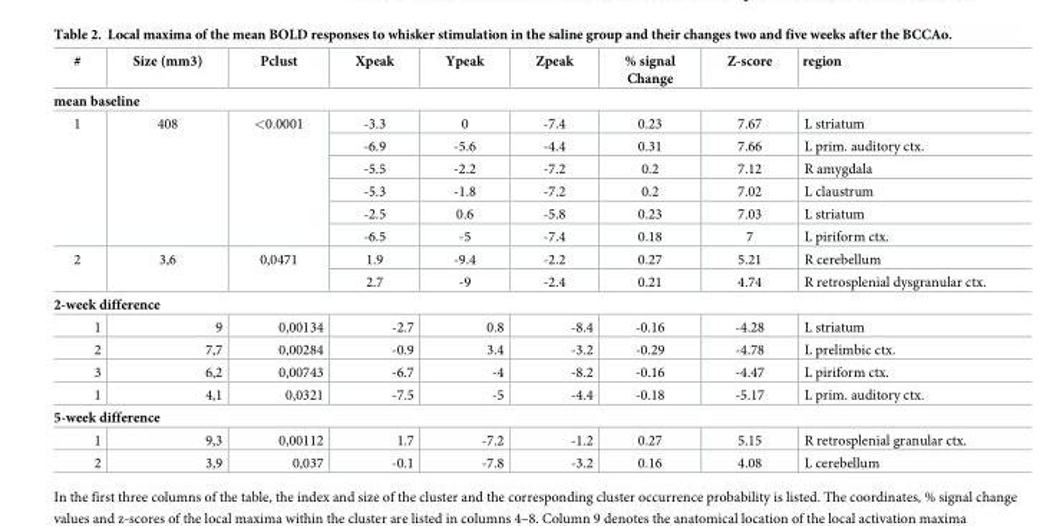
<table><thead><tr><td>#</td><td>Size (mm3)</td><td>Pclust</td><td>Xpeak</td><td>Ypeak</td><td>Zpeak</td><td>% signal Change</td><td>Z-score</td><td>region</td></tr></thead><tbody><tr><td colspan="9">mean baseline</td></tr><tr><td rowspan="6">1</td><td rowspan="6">408</td><td rowspan="6">&lt;0.0001</td><td>-3.3</td><td>0</td><td>-7.4</td><td>0.23</td><td>7.67</td><td>L striatum</td></tr><tr><td>-6.9</td><td>-5.6</td><td>-4.4</td><td>0.31</td><td>7.66</td><td>L prim. auditory ctx.</td></tr><tr><td>-5.5</td><td>-2.2</td><td>-7.2</td><td>0.2</td><td>7.12</td><td>R amygdala</td></tr><tr><td>-5.3</td><td>-1.8</td><td>-7.2</td><td>0.2</td><td>7.02</td><td>L claustrum</td></tr><tr><td>-2.5</td><td>0.6</td><td>-5.8</td><td>0.23</td><td>7.03</td><td>L striatum</td></tr><tr><td>-6.5</td><td>-5</td><td>-7.4</td><td>0.18</td><td>7</td><td>L piriform ctx.</td></tr><tr><td rowspan="2">2</td><td rowspan="2">3,6</td><td rowspan="2">0,0471</td><td>1.9</td><td>-9.4</td><td>-2.2</td><td>0.27</td><td>5.21</td><td>R cerebellum</td></tr><tr><td>2.7</td><td>-9</td><td>-2.4</td><td>0.21</td><td>4.74</td><td>R retrosplenial dysgranular ctx.</td></tr><tr><td colspan="9">2-week difference</td></tr><tr><td>1</td><td>9</td><td>0,00134</td><td>-2.7</td><td>0.8</td><td>-8.4</td><td>-0.16</td><td>-4.28</td><td>L striatum</td></tr><tr><td>2</td><td>7,7</td><td>0,00284</td><td>-0.9</td><td>3.4</td><td>-3.2</td><td>-0.29</td><td>-4.78</td><td>L prelimbic ctx.</td></tr><tr><td>3</td><td>6,2</td><td>0,00743</td><td>-6.7</td><td>-4</td><td>-8.2</td><td>-0.16</td><td>-4.47</td><td>L piriform ctx.</td></tr><tr><td>1</td><td>4,1</td><td>0,0321</td><td>-7.5</td><td>-5</td><td>-4.4</td><td>-0.18</td><td>-5.17</td><td>L prim. auditory ctx.</td></tr><tr><td colspan="9">5-week difference</td></tr><tr><td>1</td><td>9,3</td><td>0,00112</td><td>1.7</td><td>-7.2</td><td>-1.2</td><td>0.27</td><td>5.15</td><td>R retrosplenial granular ctx.</td></tr><tr><td>2</td><td>3,9</td><td>0,037</td><td>-0.1</td><td>-7.8</td><td>-3.2</td><td>0.16</td><td>4.08</td><td>L cerebellum</td></tr></tbody></table>